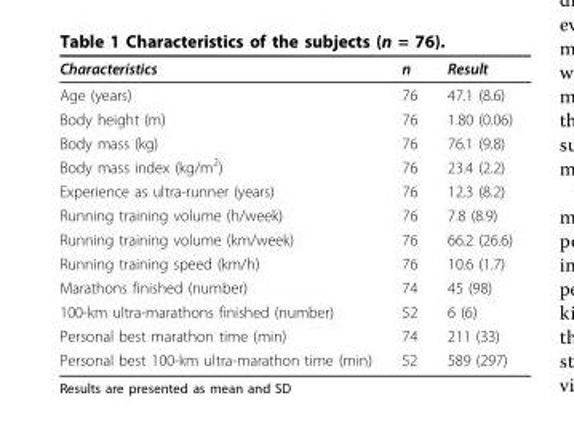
<table><thead><tr><td>Characteristics</td><td>n</td><td>Result</td></tr></thead><tbody><tr><td>Age (years)</td><td>76</td><td>47.1 (8.6)</td></tr><tr><td>Body height (m)</td><td>76</td><td>1.80 (0.06)</td></tr><tr><td>Body mass (kg)</td><td>76</td><td>76.1 (9.8)</td></tr><tr><td>Body mass index (kg/m<sup>2</sup>)</td><td>76</td><td>23.4 (2.2)</td></tr><tr><td>Experience as ultra-runner (years)</td><td>76</td><td>12.3 (8.2)</td></tr><tr><td>Running training volume (h/week)</td><td>76</td><td>7.8 (8.9)</td></tr><tr><td>Running training volume (km/week)</td><td>76</td><td>66.2 (26.6)</td></tr><tr><td>Running training speed (km/h)</td><td>76</td><td>10.6 (1.7)</td></tr><tr><td>Marathons finished (number)</td><td>74</td><td>45 (98)</td></tr><tr><td>100-km ultra-marathons finished (number)</td><td>52</td><td>6 (6)</td></tr><tr><td>Personal best marathon time (min)</td><td>74</td><td>211 (33)</td></tr><tr><td>Personal best 100-km ultra-marathon time (min)</td><td>52</td><td>589 (297)</td></tr></tbody></table>